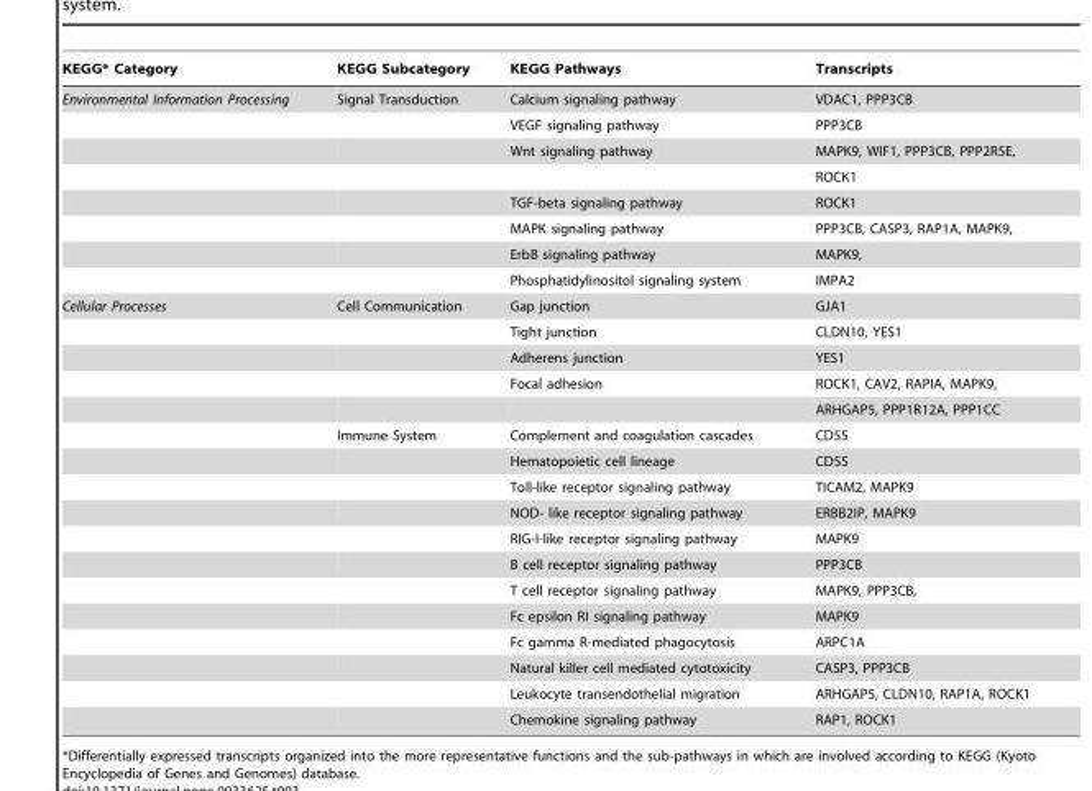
<table><thead><tr><td>KEGG* Category</td><td>KEGG Subcategory</td><td>KEGG Pathways</td><td>Transcripts</td></tr></thead><tbody><tr><td rowspan="8">Environmental Information Processing</td><td>Signal Transduction</td><td>Calcium signaling pathway</td><td>VDAC1, PPP3CB</td></tr><tr><td></td><td>VEGF signaling pathway</td><td>PPP3CB</td></tr><tr><td></td><td>Wnt signaling pathway</td><td>MAPK9, WIF1, PPP3CB, PPP2R5E,</td></tr><tr><td></td><td></td><td>ROCK1</td></tr><tr><td></td><td>TGF-beta signaling pathway</td><td>ROCK1</td></tr><tr><td></td><td>MAPK signaling pathway</td><td>PPP3CB, CASP3, RAP1A, MAPK9,</td></tr><tr><td></td><td>ErbB signaling pathway</td><td>MAPK9,</td></tr><tr><td></td><td>Phosphatidylinositol signaling system</td><td>IMPA2</td></tr><tr><td rowspan="17">Cellular Processes</td><td>Cell Communication</td><td>Gap junction</td><td>GJA1</td></tr><tr><td></td><td>Tight junction</td><td>CLDN10, YES1</td></tr><tr><td></td><td>Adherens junction</td><td>YES1</td></tr><tr><td></td><td>Focal adhesion</td><td>ROCK1, CAV2, RAPIA, MAPK9,</td></tr><tr><td></td><td></td><td>ARHGAP5, PPP1R12A, PPP1CC</td></tr><tr><td>Immune System</td><td>Complement and coagulation cascades</td><td>CD55</td></tr><tr><td></td><td>Hematopoietic cell lineage</td><td>CD55</td></tr><tr><td></td><td>Toll-like receptor signaling pathway</td><td>TICAM2, MAPK9</td></tr><tr><td></td><td>NOD- like receptor signaling pathway</td><td>ERBB2IP, MAPK9</td></tr><tr><td></td><td>RIG-I-like receptor signaling pathway</td><td>MAPK9</td></tr><tr><td></td><td>B cell receptor signaling pathway</td><td>PPP3CB</td></tr><tr><td></td><td>T cell receptor signaling pathway</td><td>MAPK9, PPP3CB,</td></tr><tr><td></td><td>Fc epsilon RI signaling pathway</td><td>MAPK9</td></tr><tr><td></td><td>Fc gamma R-mediated phagocytosis</td><td>ARPC1A</td></tr><tr><td></td><td>Natural killer cell mediated cytotoxicity</td><td>CASP3, PPP3CB</td></tr><tr><td></td><td>Leukocyte transendothelial migration</td><td>ARHGAP5, CLDN10, RAP1A, ROCK1</td></tr><tr><td></td><td>Chemokine signaling pathway</td><td>RAP1, ROCK1</td></tr></tbody></table>